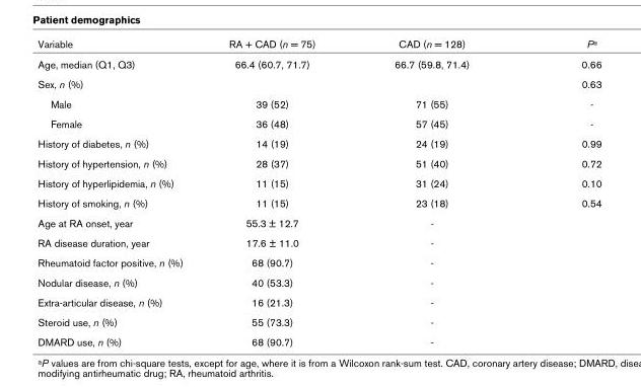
<table><thead><tr><td>Variable</td><td>RA + CAD (n = 75)</td><td>CAD (n = 128)</td><td>Pa</td></tr></thead><tbody><tr><td>Age, median (Q1, Q3)</td><td>66.4 (60.7, 71.7)</td><td>66.7 (59.8, 71.4)</td><td>0.66</td></tr><tr><td>Sex, n (%)</td><td></td><td></td><td>0.63</td></tr><tr><td>Male</td><td>39 (52)</td><td>71 (55)</td><td>-</td></tr><tr><td>Female</td><td>36 (48)</td><td>57 (45)</td><td>-</td></tr><tr><td>History of diabetes, n (%)</td><td>14 (19)</td><td>24 (19)</td><td>0.99</td></tr><tr><td>History of hypertension, n (%)</td><td>28 (37)</td><td>51 (40)</td><td>0.72</td></tr><tr><td>History of hyperlipidemia, n (%)</td><td>11 (15)</td><td>31 (24)</td><td>0.10</td></tr><tr><td>History of smoking, n (%)</td><td>11 (15)</td><td>23 (18)</td><td>0.54</td></tr><tr><td>Age at RA onset, year</td><td>55.3 ± 12.7</td><td>-</td><td></td></tr><tr><td>RA disease duration, year</td><td>17.6 ± 11.0</td><td>-</td><td></td></tr><tr><td>Rheumatoid factor positive, n (%)</td><td>68 (90.7)</td><td>-</td><td></td></tr><tr><td>Nodular disease, n (%)</td><td>40 (53.3)</td><td>-</td><td></td></tr><tr><td>Extra-articular disease, n (%)</td><td>16 (21.3)</td><td>-</td><td></td></tr><tr><td>Steroid use, n (%)</td><td>55 (73.3)</td><td>-</td><td></td></tr><tr><td>DMARD use, n (%)</td><td>68 (90.7)</td><td>-</td><td></td></tr></tbody></table>